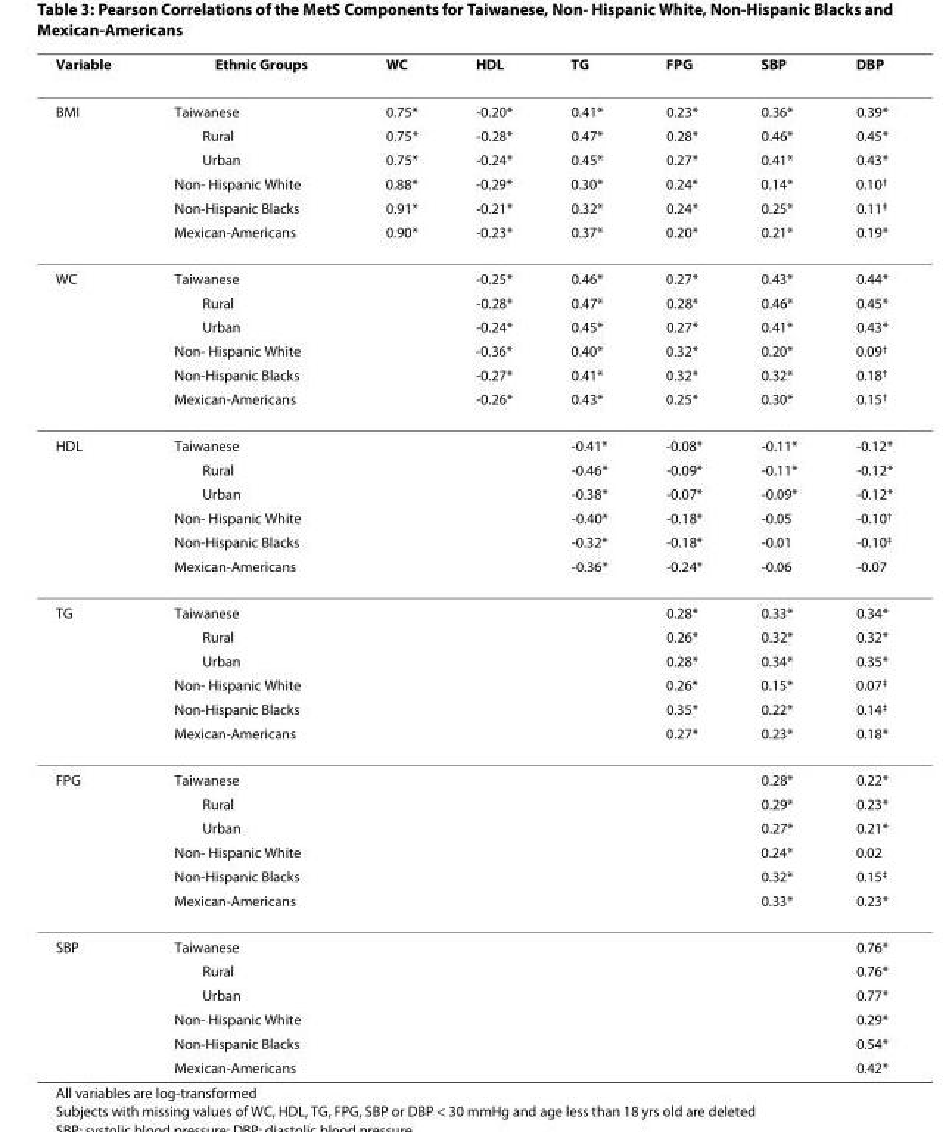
<table><thead><tr><td>Variable</td><td>Ethnic Groups</td><td>WC</td><td>HDL</td><td>TG</td><td>FPG</td><td>SBP</td><td>DBP</td></tr></thead><tbody><tr><td rowspan="6">BMI</td><td>Taiwanese</td><td>0.75*</td><td>-0.20*</td><td>0.41*</td><td>0.23*</td><td>0.36*</td><td>0.39*</td></tr><tr><td>Rural</td><td>0.75*</td><td>-0.28*</td><td>0.47*</td><td>0.28*</td><td>0.46*</td><td>0.45*</td></tr><tr><td>Urban</td><td>0.75*</td><td>-0.24*</td><td>0.45*</td><td>0.27*</td><td>0.41*</td><td>0.43*</td></tr><tr><td>Non- Hispanic White</td><td>0.88*</td><td>-0.29*</td><td>0.30*</td><td>0.24*</td><td>0.14*</td><td>0.10<sup>†</sup></td></tr><tr><td>Non-Hispanic Blacks</td><td>0.91*</td><td>-0.21*</td><td>0.32*</td><td>0.24*</td><td>0.25*</td><td>0.11<sup>‡</sup></td></tr><tr><td>Mexican-Americans</td><td>0.90*</td><td>-0.23*</td><td>0.37*</td><td>0.20*</td><td>0.21*</td><td>0.19*</td></tr><tr><td rowspan="6">WC</td><td>Taiwanese</td><td></td><td>-0.25*</td><td>0.46*</td><td>0.27*</td><td>0.43*</td><td>0.44*</td></tr><tr><td>Rural</td><td></td><td>-0.28*</td><td>0.47*</td><td>0.28*</td><td>0.46*</td><td>0.45*</td></tr><tr><td>Urban</td><td></td><td>-0.24*</td><td>0.45*</td><td>0.27*</td><td>0.41*</td><td>0.43*</td></tr><tr><td>Non- Hispanic White</td><td></td><td>-0.36*</td><td>0.40*</td><td>0.32*</td><td>0.20*</td><td>0.09<sup>†</sup></td></tr><tr><td>Non-Hispanic Blacks</td><td></td><td>-0.27*</td><td>0.41*</td><td>0.32*</td><td>0.32*</td><td>0.18<sup>†</sup></td></tr><tr><td>Mexican-Americans</td><td></td><td>-0.26*</td><td>0.43*</td><td>0.25*</td><td>0.30*</td><td>0.15<sup>†</sup></td></tr><tr><td rowspan="6">HDL</td><td>Taiwanese</td><td></td><td></td><td>-0.41*</td><td>-0.08*</td><td>-0.11*</td><td>-0.12*</td></tr><tr><td>Rural</td><td></td><td></td><td>-0.46*</td><td>-0.09*</td><td>-0.11*</td><td>-0.12*</td></tr><tr><td>Urban</td><td></td><td></td><td>-0.38*</td><td>-0.07*</td><td>-0.09*</td><td>-0.12*</td></tr><tr><td>Non- Hispanic White</td><td></td><td></td><td>-0.40*</td><td>-0.18*</td><td>-0.05</td><td>-0.10<sup>†</sup></td></tr><tr><td>Non-Hispanic Blacks</td><td></td><td></td><td>-0.32*</td><td>-0.18*</td><td>-0.01</td><td>-0.10<sup>‡</sup></td></tr><tr><td>Mexican-Americans</td><td></td><td></td><td>-0.36*</td><td>-0.24*</td><td>-0.06</td><td>-0.07</td></tr><tr><td rowspan="6">TG</td><td>Taiwanese</td><td></td><td></td><td></td><td>0.28*</td><td>0.33*</td><td>0.34*</td></tr><tr><td>Rural</td><td></td><td></td><td></td><td>0.26*</td><td>0.32*</td><td>0.32*</td></tr><tr><td>Urban</td><td></td><td></td><td></td><td>0.28*</td><td>0.34*</td><td>0.35*</td></tr><tr><td>Non- Hispanic White</td><td></td><td></td><td></td><td>0.26*</td><td>0.15*</td><td>0.07<sup>‡</sup></td></tr><tr><td>Non-Hispanic Blacks</td><td></td><td></td><td></td><td>0.35*</td><td>0.22*</td><td>0.14<sup>‡</sup></td></tr><tr><td>Mexican-Americans</td><td></td><td></td><td></td><td>0.27*</td><td>0.23*</td><td>0.18*</td></tr><tr><td rowspan="6">FPG</td><td>Taiwanese</td><td></td><td></td><td></td><td></td><td>0.28*</td><td>0.22*</td></tr><tr><td>Rural</td><td></td><td></td><td></td><td></td><td>0.29*</td><td>0.23*</td></tr><tr><td>Urban</td><td></td><td></td><td></td><td></td><td>0.27*</td><td>0.21*</td></tr><tr><td>Non- Hispanic White</td><td></td><td></td><td></td><td></td><td>0.24*</td><td>0.02</td></tr><tr><td>Non-Hispanic Blacks</td><td></td><td></td><td></td><td></td><td>0.32*</td><td>0.15<sup>‡</sup></td></tr><tr><td>Mexican-Americans</td><td></td><td></td><td></td><td></td><td>0.33*</td><td>0.23*</td></tr><tr><td rowspan="6">SBP</td><td>Taiwanese</td><td></td><td></td><td></td><td></td><td></td><td>0.76*</td></tr><tr><td>Rural</td><td></td><td></td><td></td><td></td><td></td><td>0.76*</td></tr><tr><td>Urban</td><td></td><td></td><td></td><td></td><td></td><td>0.77*</td></tr><tr><td>Non- Hispanic White</td><td></td><td></td><td></td><td></td><td></td><td>0.29*</td></tr><tr><td>Non-Hispanic Blacks</td><td></td><td></td><td></td><td></td><td></td><td>0.54*</td></tr><tr><td>Mexican-Americans</td><td></td><td></td><td></td><td></td><td></td><td>0.42*</td></tr></tbody></table>